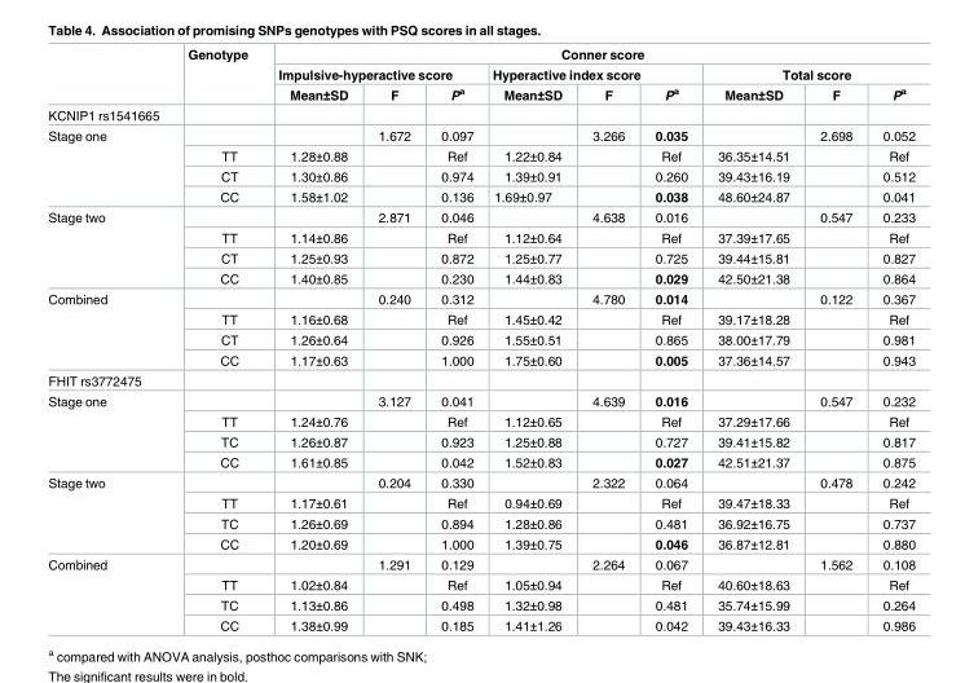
<table><thead><tr><td rowspan="3"></td><td rowspan="3">Genotype</td><td colspan="9">Conner score</td></tr><tr><td colspan="3">Impulsive-hyperactive score</td><td colspan="3">Hyperactive index score</td><td colspan="3">Total score</td></tr><tr><td>Mean±SD</td><td>F</td><td>P<sup>a</sup></td><td>Mean±SD</td><td>F</td><td>P<sup>a</sup></td><td>Mean±SD</td><td>F</td><td>P<sup>a</sup></td></tr></thead><tbody><tr><td colspan="11">KCNIP1 rs1541665</td></tr><tr><td rowspan="4">Stage one</td><td></td><td></td><td>1.672</td><td>0.097</td><td></td><td>3.266</td><td>0.035</td><td></td><td>2.698</td><td>0.052</td></tr><tr><td>TT</td><td>1.28±0.88</td><td></td><td>Ref</td><td>1.22±0.84</td><td></td><td>Ref</td><td>36.35±14.51</td><td></td><td>Ref</td></tr><tr><td>CT</td><td>1.30±0.86</td><td></td><td>0.974</td><td>1.39±0.91</td><td></td><td>0.260</td><td>39.43±16.19</td><td></td><td>0.512</td></tr><tr><td>CC</td><td>1.58±1.02</td><td></td><td>0.136</td><td>1.69±0.97</td><td></td><td>0.038</td><td>48.60±24.87</td><td></td><td>0.041</td></tr><tr><td rowspan="4">Stage two</td><td></td><td></td><td>2.871</td><td>0.046</td><td></td><td>4.638</td><td>0.016</td><td></td><td>0.547</td><td>0.233</td></tr><tr><td>TT</td><td>1.14±0.86</td><td></td><td>Ref</td><td>1.12±0.64</td><td></td><td>Ref</td><td>37.39±17.65</td><td></td><td>Ref</td></tr><tr><td>CT</td><td>1.25±0.93</td><td></td><td>0.872</td><td>1.25±0.77</td><td></td><td>0.725</td><td>39.44±15.81</td><td></td><td>0.827</td></tr><tr><td>CC</td><td>1.40±0.85</td><td></td><td>0.230</td><td>1.44±0.83</td><td></td><td>0.029</td><td>42.50±21.38</td><td></td><td>0.864</td></tr><tr><td rowspan="4">Combined</td><td></td><td></td><td>0.240</td><td>0.312</td><td></td><td>4.780</td><td>0.014</td><td></td><td>0.122</td><td>0.367</td></tr><tr><td>TT</td><td>1.16±0.68</td><td></td><td>Ref</td><td>1.45±0.42</td><td></td><td>Ref</td><td>39.17±18.28</td><td></td><td>Ref</td></tr><tr><td>CT</td><td>1.26±0.64</td><td></td><td>0.926</td><td>1.55±0.51</td><td></td><td>0.865</td><td>38.00±17.79</td><td></td><td>0.981</td></tr><tr><td>CC</td><td>1.17±0.63</td><td></td><td>1.000</td><td>1.75±0.60</td><td></td><td>0.005</td><td>37.36±14.57</td><td></td><td>0.943</td></tr><tr><td colspan="11">FHIT rs3772475</td></tr><tr><td rowspan="4">Stage one</td><td></td><td></td><td>3.127</td><td>0.041</td><td></td><td>4.639</td><td>0.016</td><td></td><td>0.547</td><td>0.232</td></tr><tr><td>TT</td><td>1.24±0.76</td><td></td><td>Ref</td><td>1.12±0.65</td><td></td><td>Ref</td><td>37.29±17.66</td><td></td><td>Ref</td></tr><tr><td>TC</td><td>1.26±0.87</td><td></td><td>0.923</td><td>1.25±0.88</td><td></td><td>0.727</td><td>39.41±15.82</td><td></td><td>0.817</td></tr><tr><td>CC</td><td>1.61±0.85</td><td></td><td>0.042</td><td>1.52±0.83</td><td></td><td>0.027</td><td>42.51±21.37</td><td></td><td>0.875</td></tr><tr><td rowspan="4">Stage two</td><td></td><td></td><td>0.204</td><td>0.330</td><td></td><td>2.322</td><td>0.064</td><td></td><td>0.478</td><td>0.242</td></tr><tr><td>TT</td><td>1.17±0.61</td><td></td><td>Ref</td><td>0.94±0.69</td><td></td><td>Ref</td><td>39.47±18.33</td><td></td><td>Ref</td></tr><tr><td>TC</td><td>1.26±0.69</td><td></td><td>0.894</td><td>1.28±0.86</td><td></td><td>0.481</td><td>36.92±16.75</td><td></td><td>0.737</td></tr><tr><td>CC</td><td>1.20±0.69</td><td></td><td>1.000</td><td>1.39±0.75</td><td></td><td>0.046</td><td>36.87±12.81</td><td></td><td>0.880</td></tr><tr><td rowspan="4">Combined</td><td></td><td></td><td>1.291</td><td>0.129</td><td></td><td>2.264</td><td>0.067</td><td></td><td>1.562</td><td>0.108</td></tr><tr><td>TT</td><td>1.02±0.84</td><td></td><td>Ref</td><td>1.05±0.94</td><td></td><td>Ref</td><td>40.60±18.63</td><td></td><td>Ref</td></tr><tr><td>TC</td><td>1.13±0.86</td><td></td><td>0.498</td><td>1.32±0.98</td><td></td><td>0.481</td><td>35.74±15.99</td><td></td><td>0.264</td></tr><tr><td>CC</td><td>1.38±0.99</td><td></td><td>0.185</td><td>1.41±1.26</td><td></td><td>0.042</td><td>39.43±16.33</td><td></td><td>0.986</td></tr></tbody></table>